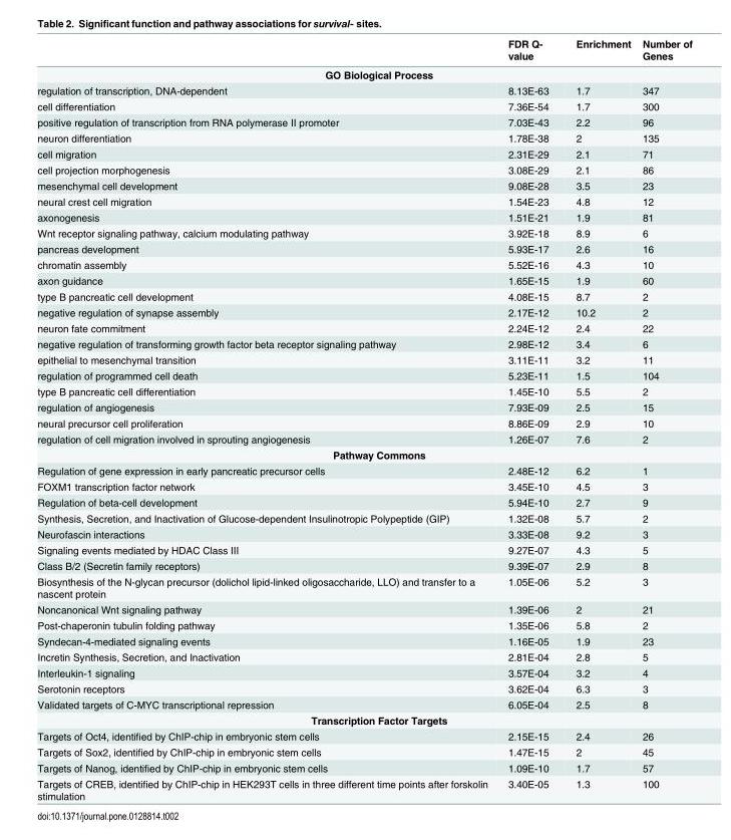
<table><thead><tr><td></td><td>FDR Q- value</td><td>Enrichment</td><td>Number of Genes</td></tr></thead><tbody><tr><td colspan="4">GO Biological Process</td></tr><tr><td>regulation of transcription, DNA-dependent</td><td>8.13E-63</td><td>1.7</td><td>347</td></tr><tr><td>cell differentiation</td><td>7.36E-54</td><td>1.7</td><td>300</td></tr><tr><td>positive regulation of transcription from RNA polymerase II promoter</td><td>7.03E-43</td><td>2.2</td><td>96</td></tr><tr><td>neuron differentiation</td><td>1.78E-38</td><td>2</td><td>135</td></tr><tr><td>cell migration</td><td>2.31E-29</td><td>2.1</td><td>71</td></tr><tr><td>cell projection morphogenesis</td><td>3.08E-29</td><td>2.1</td><td>86</td></tr><tr><td>mesenchymal cell development</td><td>9.08E-28</td><td>3.5</td><td>23</td></tr><tr><td>neural crest cell migration</td><td>1.54E-23</td><td>4.8</td><td>12</td></tr><tr><td>axonogenesis</td><td>1.51E-21</td><td>1.9</td><td>81</td></tr><tr><td>Wnt receptor signaling pathway, calcium modulating pathway</td><td>3.92E-18</td><td>8.9</td><td>6</td></tr><tr><td>pancreas development</td><td>5.93E-17</td><td>2.6</td><td>16</td></tr><tr><td>chromatin assembly</td><td>5.52E-16</td><td>4.3</td><td>10</td></tr><tr><td>axon guidance</td><td>1.65E-15</td><td>1.9</td><td>60</td></tr><tr><td>type B pancreatic cell development</td><td>4.08E-15</td><td>8.7</td><td>2</td></tr><tr><td>negative regulation of synapse assembly</td><td>2.17E-12</td><td>10.2</td><td>2</td></tr><tr><td>neuron fate commitment</td><td>2.24E-12</td><td>2.4</td><td>22</td></tr><tr><td>negative regulation of transforming growth factor beta receptor signaling pathway</td><td>2.98E-12</td><td>3.4</td><td>6</td></tr><tr><td>epithelial to mesenchymal transition</td><td>3.11E-11</td><td>3.2</td><td>11</td></tr><tr><td>regulation of programmed cell death</td><td>5.23E-11</td><td>1.5</td><td>104</td></tr><tr><td>type B pancreatic cell differentiation</td><td>1.45E-10</td><td>5.5</td><td>2</td></tr><tr><td>regulation of angiogenesis</td><td>7.93E-09</td><td>2.5</td><td>15</td></tr><tr><td>neural precursor cell proliferation</td><td>8.86E-09</td><td>2.9</td><td>10</td></tr><tr><td>regulation of cell migration involved in sprouting angiogenesis</td><td>1.26E-07</td><td>7.6</td><td>2</td></tr><tr><td colspan="4">Pathway Commons</td></tr><tr><td>Regulation of gene expression in early pancreatic precursor cells</td><td>2.48E-12</td><td>6.2</td><td>1</td></tr><tr><td>FOXM1 transcription factor network</td><td>3.45E-10</td><td>4.5</td><td>3</td></tr><tr><td>Regulation of beta-cell development</td><td>5.94E-10</td><td>2.7</td><td>9</td></tr><tr><td>Synthesis, Secretion, and Inactivation of Glucose-dependent Insulinotropic Polypeptide (GIP)</td><td>1.32E-08</td><td>5.7</td><td>2</td></tr><tr><td>Neurofascin interactions</td><td>3.33E-08</td><td>9.2</td><td>3</td></tr><tr><td>Signaling events mediated by HDAC Class III</td><td>9.27E-07</td><td>4.3</td><td>5</td></tr><tr><td>Class B/2 (Secretin family receptors)</td><td>9.39E-07</td><td>2.9</td><td>8</td></tr><tr><td>Biosynthesis of the N-glycan precursor (dolichol lipid-linked oligosaccharide, LLO) and transfer to a nascent protein</td><td>1.05E-06</td><td>5.2</td><td>3</td></tr><tr><td>Noncanonical Wnt signaling pathway</td><td>1.39E-06</td><td>2</td><td>21</td></tr><tr><td>Post-chaperonin tubulin folding pathway</td><td>1.35E-06</td><td>5.8</td><td>2</td></tr><tr><td>Syndecan-4-mediated signaling events</td><td>1.16E-05</td><td>1.9</td><td>23</td></tr><tr><td>Incretin Synthesis, Secretion, and Inactivation</td><td>2.81E-04</td><td>2.8</td><td>5</td></tr><tr><td>Interleukin-1 signaling</td><td>3.57E-04</td><td>3.2</td><td>4</td></tr><tr><td>Serotonin receptors</td><td>3.62E-04</td><td>6.3</td><td>3</td></tr><tr><td>Validated targets of C-MYC transcriptional repression</td><td>6.05E-04</td><td>2.5</td><td>8</td></tr><tr><td colspan="4">Transcription Factor Targets</td></tr><tr><td>Targets of Oct4, identified by ChIP-chip in embryonic stem cells</td><td>2.15E-15</td><td>2.4</td><td>26</td></tr><tr><td>Targets of Sox2, identified by ChIP-chip in embryonic stem cells</td><td>1.47E-15</td><td>2</td><td>45</td></tr><tr><td>Targets of Nanog, identified by ChIP-chip in embryonic stem cells</td><td>1.09E-10</td><td>1.7</td><td>57</td></tr><tr><td>Targets of CREB, identified by ChIP-chip in HEK293T cells in three different time points after forskolin stimulation</td><td>3.40E-05</td><td>1.3</td><td>100</td></tr></tbody></table>